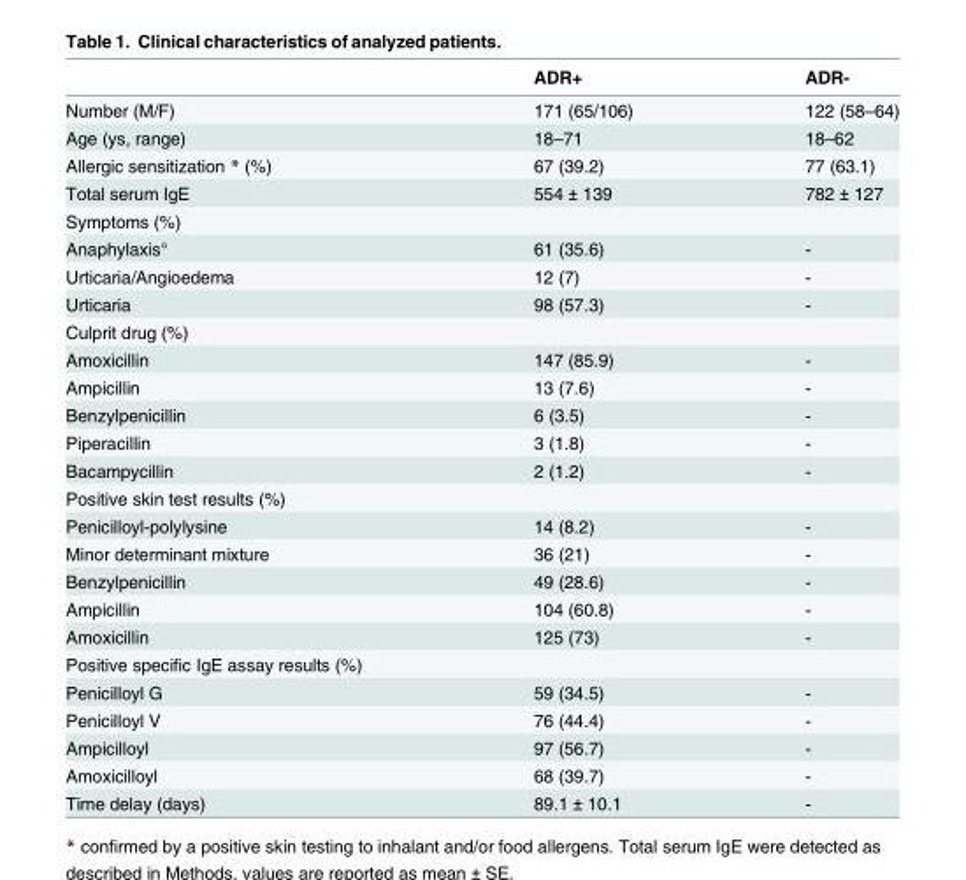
<table><thead><tr><td></td><td>ADR+</td><td>ADR-</td></tr></thead><tbody><tr><td>Number (M/F)</td><td>171 (65/106)</td><td>122 (58–64)</td></tr><tr><td>Age (ys, range)</td><td>18–71</td><td>18–62</td></tr><tr><td>Allergic sensitization * (%)</td><td>67 (39.2)</td><td>77 (63.1)</td></tr><tr><td>Total serum IgE</td><td>554 ± 139</td><td>782 ± 127</td></tr><tr><td colspan="3">Symptoms (%)</td></tr><tr><td>Anaphylaxis°</td><td>61 (35.6)</td><td>-</td></tr><tr><td>Urticaria/Angioedema</td><td>12 (7)</td><td>-</td></tr><tr><td>Urticaria</td><td>98 (57.3)</td><td>-</td></tr><tr><td colspan="3">Culprit drug (%)</td></tr><tr><td>Amoxicillin</td><td>147 (85.9)</td><td>-</td></tr><tr><td>Ampicillin</td><td>13 (7.6)</td><td>-</td></tr><tr><td>Benzylpenicillin</td><td>6 (3.5)</td><td>-</td></tr><tr><td>Piperacillin</td><td>3 (1.8)</td><td>-</td></tr><tr><td>Bacampycillin</td><td>2 (1.2)</td><td>-</td></tr><tr><td colspan="3">Positive skin test results (%)</td></tr><tr><td>Penicilloyl-polylysine</td><td>14 (8.2)</td><td>-</td></tr><tr><td>Minor determinant mixture</td><td>36 (21)</td><td>-</td></tr><tr><td>Benzylpenicillin</td><td>49 (28.6)</td><td>-</td></tr><tr><td>Ampicillin</td><td>104 (60.8)</td><td>-</td></tr><tr><td>Amoxicillin</td><td>125 (73)</td><td>-</td></tr><tr><td colspan="3">Positive specific IgE assay results (%)</td></tr><tr><td>Penicilloyl G</td><td>59 (34.5)</td><td>-</td></tr><tr><td>Penicilloyl V</td><td>76 (44.4)</td><td>-</td></tr><tr><td>Ampicilloyl</td><td>97 (56.7)</td><td>-</td></tr><tr><td>Amoxicilloyl</td><td>68 (39.7)</td><td>-</td></tr><tr><td>Time delay (days)</td><td>89.1 ± 10.1</td><td>-</td></tr></tbody></table>